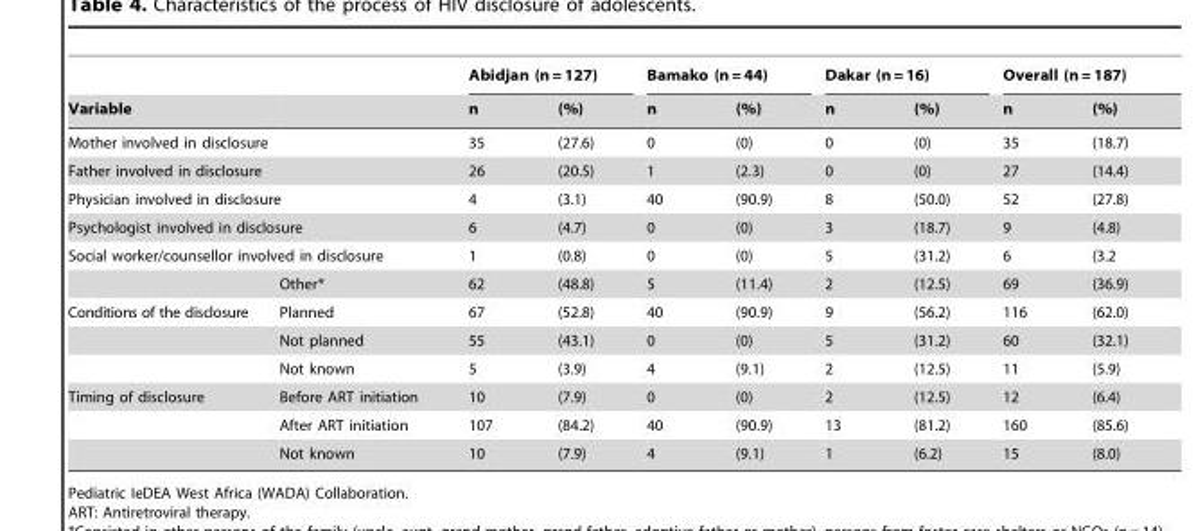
<table><thead><tr><td rowspan="2">Variable</td><td rowspan="2"></td><td colspan="2">Abidjan (n = 127)</td><td colspan="2">Bamako (n = 44)</td><td colspan="2">Dakar (n = 16)</td><td colspan="2">Overall (n = 187)</td></tr><tr><td>n</td><td>(%)</td><td>n</td><td>(%)</td><td>n</td><td>(%)</td><td>n</td><td>(%)</td></tr></thead><tbody><tr><td colspan="2">Mother involved in disclosure</td><td>35</td><td>(27.6)</td><td>0</td><td>(0)</td><td>0</td><td>(0)</td><td>35</td><td>(18.7)</td></tr><tr><td colspan="2">Father involved in disclosure</td><td>26</td><td>(20.5)</td><td>1</td><td>(2.3)</td><td>0</td><td>(0)</td><td>27</td><td>(14.4)</td></tr><tr><td colspan="2">Physician involved in disclosure</td><td>4</td><td>(3.1)</td><td>40</td><td>(90.9)</td><td>8</td><td>(50.0)</td><td>52</td><td>(27.8)</td></tr><tr><td colspan="2">Psychologist involved in disclosure</td><td>6</td><td>(4.7)</td><td>0</td><td>(0)</td><td>3</td><td>(18.7)</td><td>9</td><td>(4.8)</td></tr><tr><td colspan="2">Social worker/counsellor involved in disclosure</td><td>1</td><td>(0.8)</td><td>0</td><td>(0)</td><td>5</td><td>(31.2)</td><td>6</td><td>(3.2</td></tr><tr><td></td><td>Other*</td><td>62</td><td>(48.8)</td><td>5</td><td>(11.4)</td><td>2</td><td>(12.5)</td><td>69</td><td>(36.9)</td></tr><tr><td rowspan="3">Conditions of the disclosure</td><td>Planned</td><td>67</td><td>(52.8)</td><td>40</td><td>(90.9)</td><td>9</td><td>(56.2)</td><td>116</td><td>(62.0)</td></tr><tr><td>Not planned</td><td>55</td><td>(43.1)</td><td>0</td><td>(0)</td><td>5</td><td>(31.2)</td><td>60</td><td>(32.1)</td></tr><tr><td>Not known</td><td>5</td><td>(3.9)</td><td>4</td><td>(9.1)</td><td>2</td><td>(12.5)</td><td>11</td><td>(5.9)</td></tr><tr><td rowspan="3">Timing of disclosure</td><td>Before ART initiation</td><td>10</td><td>(7.9)</td><td>0</td><td>(0)</td><td>2</td><td>(12.5)</td><td>12</td><td>(6.4)</td></tr><tr><td>After ART initiation</td><td>107</td><td>(84.2)</td><td>40</td><td>(90.9)</td><td>13</td><td>(81.2)</td><td>160</td><td>(85.6)</td></tr><tr><td>Not known</td><td>10</td><td>(7.9)</td><td>4</td><td>(9.1)</td><td>1</td><td>(6.2)</td><td>15</td><td>(8.0)</td></tr></tbody></table>